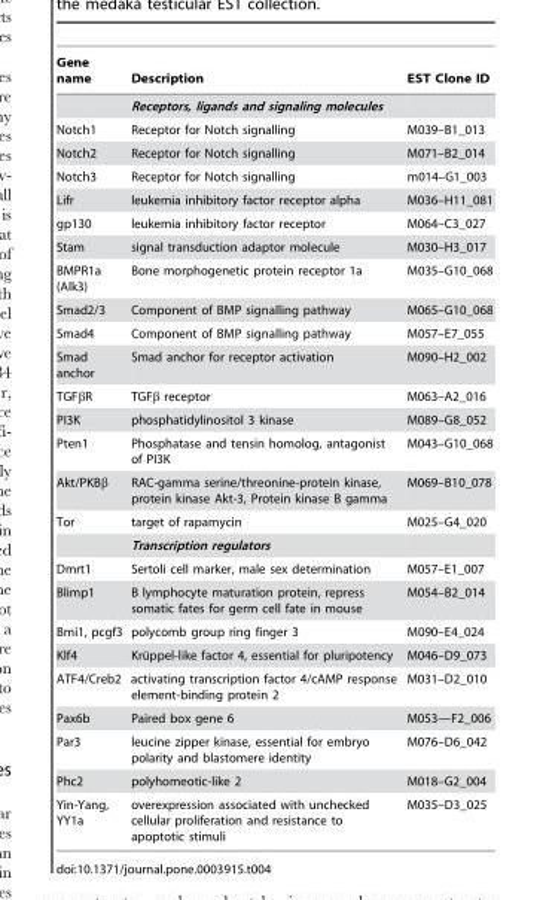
<table><thead><tr><td>Gene name</td><td>Description</td><td>EST Clone ID</td></tr></thead><tbody><tr><td></td><td>Receptors, ligands and signaling molecules</td><td></td></tr><tr><td>Notch1</td><td>Receptor for Notch signalling</td><td>M039–B1_013</td></tr><tr><td>Notch2</td><td>Receptor for Notch signalling</td><td>M071–B2_014</td></tr><tr><td>Notch3</td><td>Receptor for Notch signalling</td><td>m014–G1_003</td></tr><tr><td>Lifr</td><td>leukemia inhibitory factor receptor alpha</td><td>M036–H11_081</td></tr><tr><td>gp130</td><td>leukemia inhibitory factor receptor</td><td>M064–C3_027</td></tr><tr><td>Stam</td><td>signal transduction adaptor molecule</td><td>M030–H3_017</td></tr><tr><td>BMPR1a (Alk3)</td><td>Bone morphogenetic protein receptor 1a</td><td>M035–G10_068</td></tr><tr><td>Smad2/3</td><td>Component of BMP signalling pathway</td><td>M065–G10_068</td></tr><tr><td>Smad4</td><td>Component of BMP signalling pathway</td><td>M057–E7_055</td></tr><tr><td>Smad anchor</td><td>Smad anchor for receptor activation</td><td>M090–H2_002</td></tr><tr><td>TGFβR</td><td>TGFβ receptor</td><td>M063–A2_016</td></tr><tr><td>PI3K</td><td>phosphatidylinositol 3 kinase</td><td>M089–G8_052</td></tr><tr><td>Pten1</td><td>Phosphatase and tensin homolog, antagonist of PI3K</td><td>M043–G10_068</td></tr><tr><td>Akt/PKBβ</td><td>RAC-gamma serine/threonine-protein kinase, protein kinase Akt-3, Protein kinase B gamma</td><td>M069–B10_078</td></tr><tr><td rowspan="2">Tor</td><td>target of rapamycin</td><td>M025–G4_020</td></tr><tr><td>Transcription regulators</td><td></td></tr><tr><td>Dmrt1</td><td>Sertoli cell marker, male sex determination</td><td>M057–E1_007</td></tr><tr><td>Blimp1</td><td>B lymphocyte maturation protein, repress somatic fates for germ cell fate in mouse</td><td>M054–B2_014</td></tr><tr><td>Bmi1, pcgf3</td><td>polycomb group ring finger 3</td><td>M090–E4_024</td></tr><tr><td>Klf4</td><td>Kru¨ppel-like factor 4, essential for pluripotency</td><td>M046–D9_073</td></tr><tr><td>ATF4/Creb2</td><td>activating transcription factor 4/cAMP response element-binding protein 2</td><td>M031–D2_010</td></tr><tr><td>Pax6b</td><td>Paired box gene 6</td><td>M053—F2_006</td></tr><tr><td>Par3</td><td>leucine zipper kinase, essential for embryo polarity and blastomere identity</td><td>M076–D6_042</td></tr><tr><td>Phc2</td><td>polyhomeotic-like 2</td><td>M018–G2_004</td></tr><tr><td>Yin-Yang, YY1a</td><td>overexpression associated with unchecked cellular proliferation and resistance to apoptotic stimuli</td><td>M035–D3_025</td></tr></tbody></table>